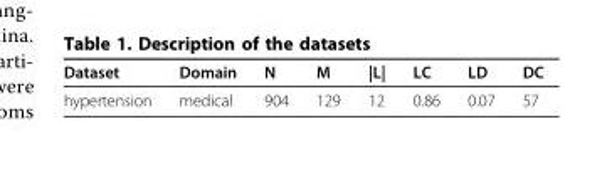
<table><thead><tr><td>Dataset</td><td>Domain</td><td>N</td><td>M</td><td>|L|</td><td>LC</td><td>LD</td><td>DC</td></tr></thead><tbody><tr><td>hypertension</td><td>medical</td><td>904</td><td>129</td><td>12</td><td>0.86</td><td>0.07</td><td>57</td></tr></tbody></table>